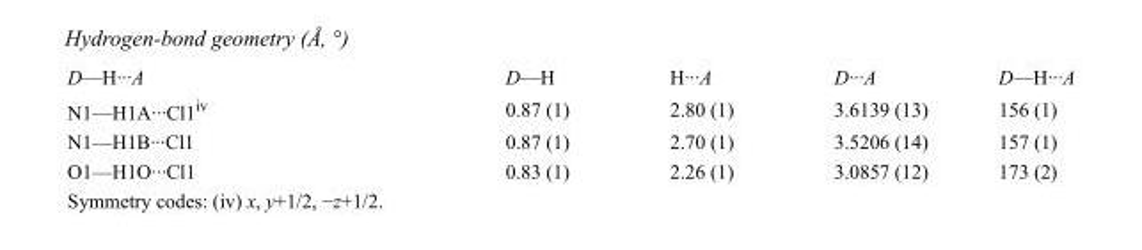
<table><tbody><tr><td>D—H···A</td><td>D—H</td><td>H···A</td><td>D···A</td><td>D—H···A</td></tr><tr><td>N1—H1A···Cl1<sup>iv</sup></td><td>0.87 (1)</td><td>2.80 (1)</td><td>3.6139 (13)</td><td>156 (1)</td></tr><tr><td>N1—H1B···Cl1</td><td>0.87 (1)</td><td>2.70 (1)</td><td>3.5206 (14)</td><td>157 (1)</td></tr><tr><td>O1—H1O···Cl1</td><td>0.83 (1)</td><td>2.26 (1)</td><td>3.0857 (12)</td><td>173 (2)</td></tr></tbody></table>